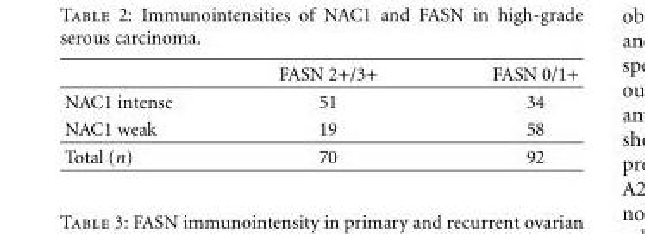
<table><thead><tr><td></td><td>FASN 2+/3+</td><td>FASN 0/1+</td></tr></thead><tbody><tr><td>NAC1 intense</td><td>51</td><td>34</td></tr><tr><td>NAC1 weak</td><td>19</td><td>58</td></tr><tr><td>Total (n)</td><td>70</td><td>92</td></tr></tbody></table>